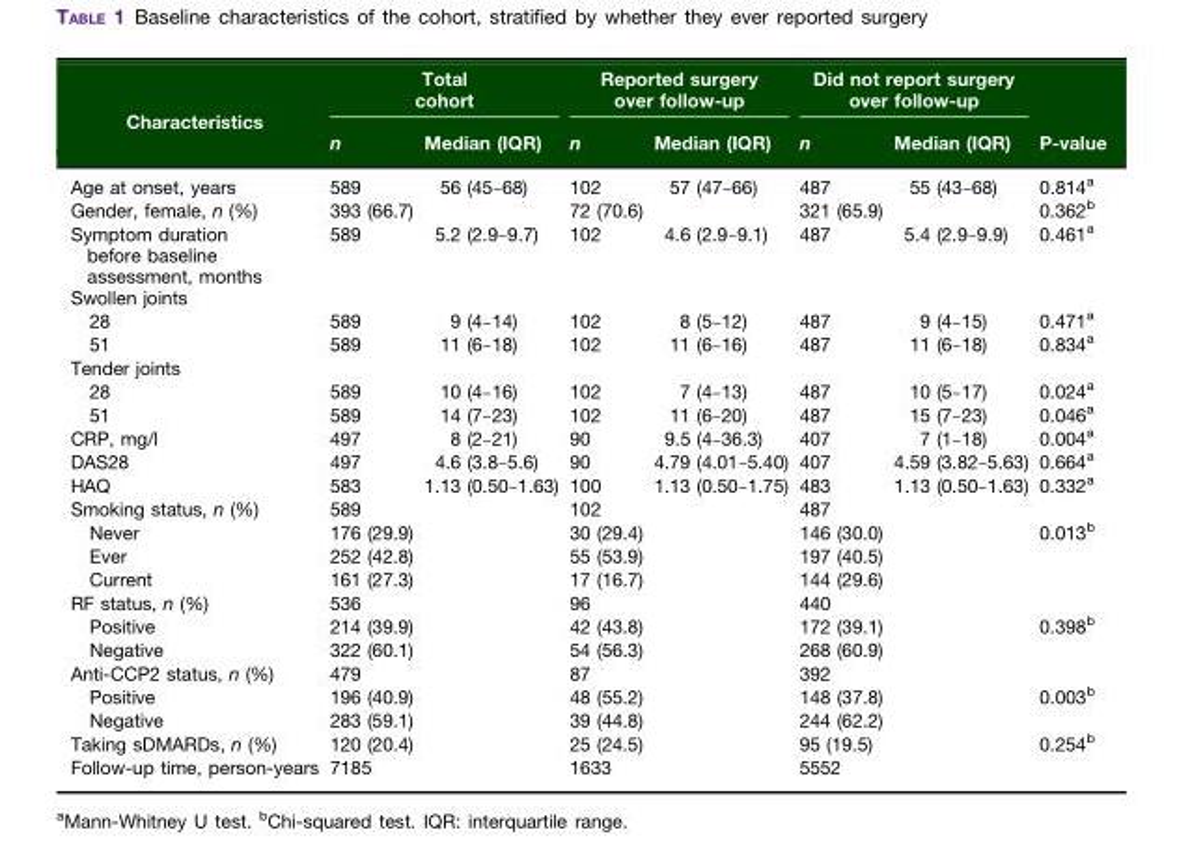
<table><thead><tr><td rowspan="2">Characteristics</td><td colspan="2">Total cohort</td><td colspan="2">Reported surgery over follow-up</td><td colspan="2">Did not report surgery over follow-up</td><td rowspan="2">P-value</td></tr><tr><td>n</td><td>Median (IQR)</td><td>n</td><td>Median (IQR)</td><td>n</td><td>Median (IQR)</td></tr></thead><tbody><tr><td>Age at onset, years</td><td>589</td><td>56 (45–68)</td><td>102</td><td>57 (47–66)</td><td>487</td><td>55 (43–68)</td><td>0.814<sup>a</sup></td></tr><tr><td>Gender, female, n (%)</td><td>393 (66.7)</td><td></td><td>72 (70.6)</td><td></td><td>321 (65.9)</td><td></td><td>0.362<sup>b</sup></td></tr><tr><td>Symptom duration before baseline assessment, months</td><td>589</td><td>5.2 (2.9–9.7)</td><td>102</td><td>4.6 (2.9–9.1)</td><td>487</td><td>5.4 (2.9–9.9)</td><td>0.461<sup>a</sup></td></tr><tr><td colspan="8">Swollen joints</td></tr><tr><td>28</td><td>589</td><td>9 (4–14)</td><td>102</td><td>8 (5–12)</td><td>487</td><td>9 (4–15)</td><td>0.471<sup>a</sup></td></tr><tr><td>51</td><td>589</td><td>11 (6–18)</td><td>102</td><td>11 (6–16)</td><td>487</td><td>11 (6–18)</td><td>0.834<sup>a</sup></td></tr><tr><td colspan="8">Tender joints</td></tr><tr><td>28</td><td>589</td><td>10 (4–16)</td><td>102</td><td>7 (4–13)</td><td>487</td><td>10 (5–17)</td><td>0.024<sup>a</sup></td></tr><tr><td>51</td><td>589</td><td>14 (7–23)</td><td>102</td><td>11 (6–20)</td><td>487</td><td>15 (7–23)</td><td>0.046<sup>a</sup></td></tr><tr><td>CRP, mg/l</td><td>497</td><td>8 (2–21)</td><td>90</td><td>9.5 (4–36.3)</td><td>407</td><td>7 (1–18)</td><td>0.004<sup>a</sup></td></tr><tr><td>DAS28</td><td>497</td><td>4.6 (3.8–5.6)</td><td>90</td><td>4.79 (4.01–5.40)</td><td>407</td><td>4.59 (3.82–5.63)</td><td>0.664<sup>a</sup></td></tr><tr><td>HAQ</td><td>583</td><td>1.13 (0.50–1.63)</td><td>100</td><td>1.13 (0.50–1.75)</td><td>483</td><td>1.13 (0.50–1.63)</td><td>0.332<sup>a</sup></td></tr><tr><td>Smoking status, n (%)</td><td>589</td><td></td><td>102</td><td></td><td>487</td><td></td><td></td></tr><tr><td>Never</td><td>176 (29.9)</td><td></td><td>30 (29.4)</td><td></td><td>146 (30.0)</td><td></td><td>0.013<sup>b</sup></td></tr><tr><td>Ever</td><td>252 (42.8)</td><td></td><td>55 (53.9)</td><td></td><td>197 (40.5)</td><td></td><td></td></tr><tr><td>Current</td><td>161 (27.3)</td><td></td><td>17 (16.7)</td><td></td><td>144 (29.6)</td><td></td><td></td></tr><tr><td>RF status, n (%)</td><td>536</td><td></td><td>96</td><td></td><td>440</td><td></td><td></td></tr><tr><td>Positive</td><td>214 (39.9)</td><td></td><td>42 (43.8)</td><td></td><td>172 (39.1)</td><td></td><td>0.398<sup>b</sup></td></tr><tr><td>Negative</td><td>322 (60.1)</td><td></td><td>54 (56.3)</td><td></td><td>268 (60.9)</td><td></td><td></td></tr><tr><td>Anti-CCP2 status, n (%)</td><td>479</td><td></td><td>87</td><td></td><td>392</td><td></td><td></td></tr><tr><td>Positive</td><td>196 (40.9)</td><td></td><td>48 (55.2)</td><td></td><td>148 (37.8)</td><td></td><td>0.003<sup>b</sup></td></tr><tr><td>Negative</td><td>283 (59.1)</td><td></td><td>39 (44.8)</td><td></td><td>244 (62.2)</td><td></td><td></td></tr><tr><td>Taking sDMARDs, n (%)</td><td>120 (20.4)</td><td></td><td>25 (24.5)</td><td></td><td>95 (19.5)</td><td></td><td>0.254<sup>b</sup></td></tr><tr><td>Follow-up time, person-years</td><td>7185</td><td></td><td>1633</td><td></td><td>5552</td><td></td><td></td></tr></tbody></table>